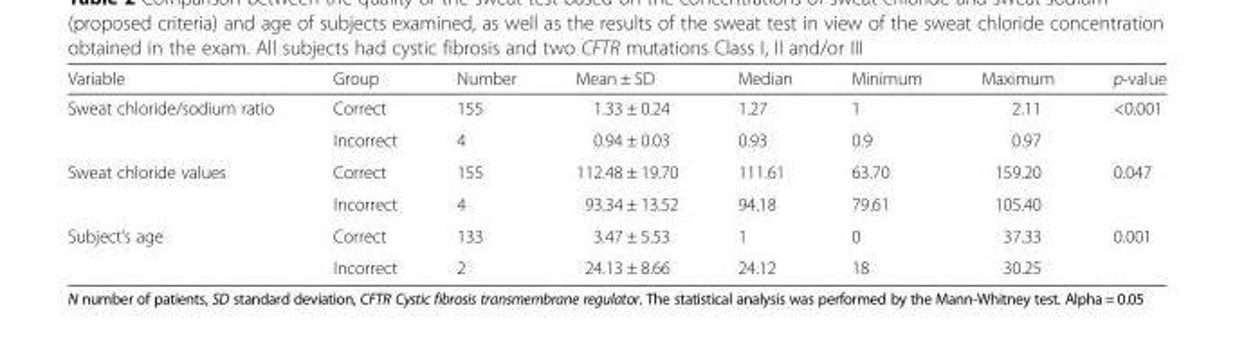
<table><thead><tr><td>Variable</td><td>Group</td><td>Number</td><td>Mean ± SD</td><td>Median</td><td>Minimum</td><td>Maximum</td><td>p-value</td></tr></thead><tbody><tr><td rowspan="2">Sweat chloride/sodium ratio</td><td>Correct</td><td>155</td><td>1.33 ± 0.24</td><td>1.27</td><td>1</td><td>2.11</td><td rowspan="2">&lt;0.001</td></tr><tr><td>Incorrect</td><td>4</td><td>0.94 ± 0.03</td><td>0.93</td><td>0.9</td><td>0.97</td></tr><tr><td rowspan="2">Sweat chloride values</td><td>Correct</td><td>155</td><td>112.48 ± 19.70</td><td>111.61</td><td>63.70</td><td>159.20</td><td rowspan="2">0.047</td></tr><tr><td>Incorrect</td><td>4</td><td>93.34 ± 13.52</td><td>94.18</td><td>79.61</td><td>105.40</td></tr><tr><td rowspan="2">Subject’s age</td><td>Correct</td><td>133</td><td>3.47 ± 5.53</td><td>1</td><td>0</td><td>37.33</td><td rowspan="2">0.001</td></tr><tr><td>Incorrect</td><td>2</td><td>24.13 ± 8.66</td><td>24.12</td><td>18</td><td>30.25</td></tr></tbody></table>